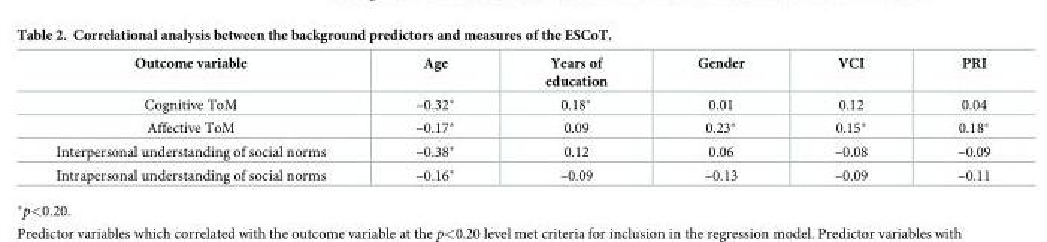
<table><thead><tr><td>Outcome variable</td><td>Age</td><td>Years of education</td><td>Gender</td><td>VCI</td><td>PRI</td></tr></thead><tbody><tr><td>Cognitive ToM</td><td>–0.32*</td><td>0.18*</td><td>0.01</td><td>0.12</td><td>0.04</td></tr><tr><td>Affective ToM</td><td>–0.17*</td><td>0.09</td><td>0.23*</td><td>0.15*</td><td>0.18*</td></tr><tr><td>Interpersonal understanding of social norms</td><td>–0.38*</td><td>0.12</td><td>0.06</td><td>–0.08</td><td>–0.09</td></tr><tr><td>Intrapersonal understanding of social norms</td><td>–0.16*</td><td>–0.09</td><td>–0.13</td><td>–0.09</td><td>–0.11</td></tr></tbody></table>